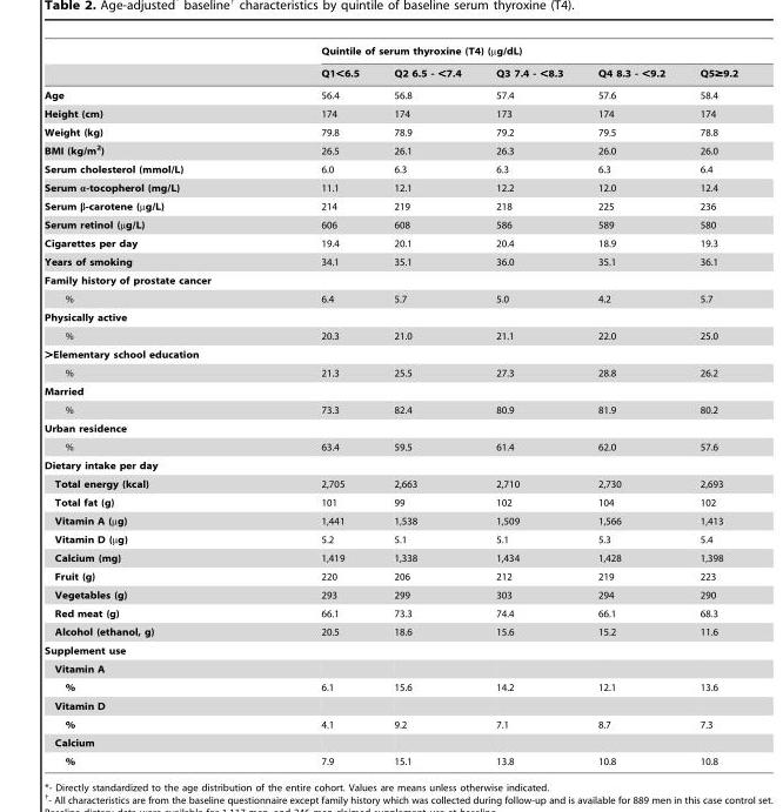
<table><thead><tr><td rowspan="2"></td><td colspan="5">Quintile of serum thyroxine (T4) (µg/dL)</td></tr><tr><td>Q1&lt;6.5</td><td>Q2 6.5 - &lt;7.4</td><td>Q3 7.4 - &lt;8.3</td><td>Q4 8.3 - &lt;9.2</td><td>Q5≥9.2</td></tr></thead><tbody><tr><td>Age</td><td>56.4</td><td>56.8</td><td>57.4</td><td>57.6</td><td>58.4</td></tr><tr><td>Height (cm)</td><td>174</td><td>174</td><td>173</td><td>174</td><td>174</td></tr><tr><td>Weight (kg)</td><td>79.8</td><td>78.9</td><td>79.2</td><td>79.5</td><td>78.8</td></tr><tr><td>BMI (kg/m<sup>2</sup>)</td><td>26.5</td><td>26.1</td><td>26.3</td><td>26.0</td><td>26.0</td></tr><tr><td>Serum cholesterol (mmol/L)</td><td>6.0</td><td>6.3</td><td>6.3</td><td>6.3</td><td>6.4</td></tr><tr><td>Serum α-tocopherol (mg/L)</td><td>11.1</td><td>12.1</td><td>12.2</td><td>12.0</td><td>12.4</td></tr><tr><td>Serum β-carotene (µg/L)</td><td>214</td><td>219</td><td>218</td><td>225</td><td>236</td></tr><tr><td>Serum retinol (µg/L)</td><td>606</td><td>608</td><td>586</td><td>589</td><td>580</td></tr><tr><td>Cigarettes per day</td><td>19.4</td><td>20.1</td><td>20.4</td><td>18.9</td><td>19.3</td></tr><tr><td>Years of smoking</td><td>34.1</td><td>35.1</td><td>36.0</td><td>35.1</td><td>36.1</td></tr><tr><td colspan="6">Family history of prostate cancer</td></tr><tr><td>%</td><td>6.4</td><td>5.7</td><td>5.0</td><td>4.2</td><td>5.7</td></tr><tr><td colspan="6">Physically active</td></tr><tr><td>%</td><td>20.3</td><td>21.0</td><td>21.1</td><td>22.0</td><td>25.0</td></tr><tr><td colspan="6">&gt;Elementary school education</td></tr><tr><td>%</td><td>21.3</td><td>25.5</td><td>27.3</td><td>28.8</td><td>26.2</td></tr><tr><td colspan="6">Married</td></tr><tr><td>%</td><td>73.3</td><td>82.4</td><td>80.9</td><td>81.9</td><td>80.2</td></tr><tr><td colspan="6">Urban residence</td></tr><tr><td>%</td><td>63.4</td><td>59.5</td><td>61.4</td><td>62.0</td><td>57.6</td></tr><tr><td colspan="6">Dietary intake per day</td></tr><tr><td>Total energy (kcal)</td><td>2,705</td><td>2,663</td><td>2,710</td><td>2,730</td><td>2,693</td></tr><tr><td>Total fat (g)</td><td>101</td><td>99</td><td>102</td><td>104</td><td>102</td></tr><tr><td>Vitamin A (µg)</td><td>1,441</td><td>1,538</td><td>1,509</td><td>1,566</td><td>1,413</td></tr><tr><td>Vitamin D (µg)</td><td>5.2</td><td>5.1</td><td>5.1</td><td>5.3</td><td>5.4</td></tr><tr><td>Calcium (mg)</td><td>1,419</td><td>1,338</td><td>1,434</td><td>1,428</td><td>1,398</td></tr><tr><td>Fruit (g)</td><td>220</td><td>206</td><td>212</td><td>219</td><td>223</td></tr><tr><td>Vegetables (g)</td><td>293</td><td>299</td><td>303</td><td>294</td><td>290</td></tr><tr><td>Red meat (g)</td><td>66.1</td><td>73.3</td><td>74.4</td><td>66.1</td><td>68.3</td></tr><tr><td>Alcohol (ethanol, g)</td><td>20.5</td><td>18.6</td><td>15.6</td><td>15.2</td><td>11.6</td></tr><tr><td colspan="6">Supplement use</td></tr><tr><td colspan="6">Vitamin A</td></tr><tr><td>%</td><td>6.1</td><td>15.6</td><td>14.2</td><td>12.1</td><td>13.6</td></tr><tr><td colspan="6">Vitamin D</td></tr><tr><td>%</td><td>4.1</td><td>9.2</td><td>7.1</td><td>8.7</td><td>7.3</td></tr><tr><td colspan="6">Calcium</td></tr><tr><td>%</td><td>7.9</td><td>15.1</td><td>13.8</td><td>10.8</td><td>10.8</td></tr></tbody></table>